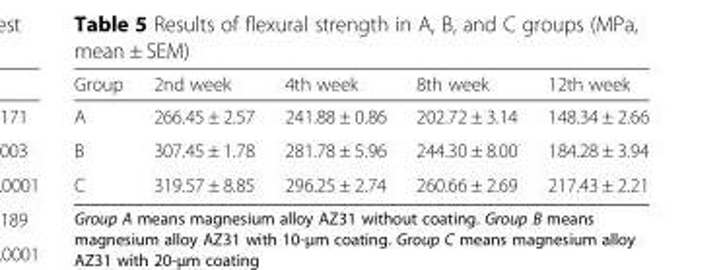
<table><thead><tr><td>Group</td><td>2nd week</td><td>4th week</td><td>8th week</td><td>12th week</td></tr></thead><tbody><tr><td>A</td><td>266.45 ± 2.57</td><td>241.88 ± 0.86</td><td>202.72 ± 3.14</td><td>148.34 ± 2.66</td></tr><tr><td>B</td><td>307.45 ± 1.78</td><td>281.78 ± 5.96</td><td>244.30 ± 8.00</td><td>184.28 ± 3.94</td></tr><tr><td>C</td><td>319.57 ± 8.85</td><td>296.25 ± 2.74</td><td>260.66 ± 2.69</td><td>217.43 ± 2.21</td></tr></tbody></table>